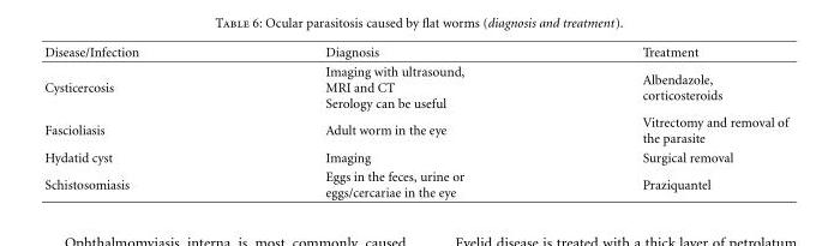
<table><thead><tr><td>Disease/Infection</td><td>Diagnosis</td><td>Treatment</td></tr></thead><tbody><tr><td>Cysticercosis</td><td>Imaging with ultrasound, MRI and CT Serology can be useful</td><td>Albendazole, corticosteroids</td></tr><tr><td>Fascioliasis</td><td>Adult worm in the eye</td><td>Vitrectomy and removal of the parasite</td></tr><tr><td>Hydatid cyst</td><td>Imaging</td><td>Surgical removal</td></tr><tr><td>Schistosomiasis</td><td>Eggs in the feces, urine or eggs/cercariae in the eye</td><td>Praziquantel</td></tr></tbody></table>